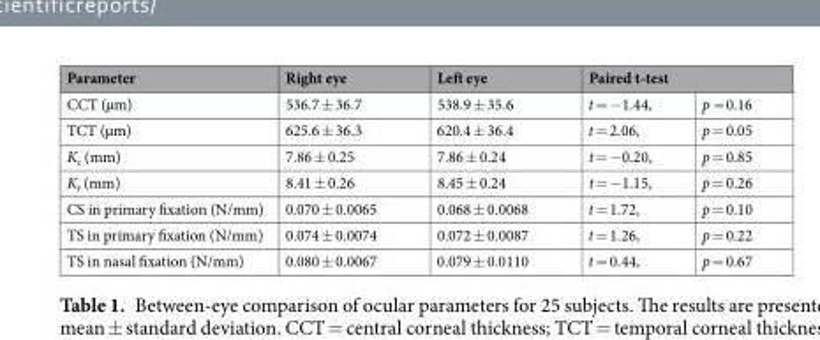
<table><thead><tr><td rowspan="2">Parameter CCT (µm)</td><td rowspan="2">Right eye 536.7 ± 36.7</td><td rowspan="2">Left eye 538.9 ± 35.6</td><td colspan="2">Paired t-test</td></tr><tr><td>t = −1.44,</td><td>p = 0.16</td></tr></thead><tbody><tr><td>TCT (µm)</td><td>625.6 ± 36.3</td><td>620.4 ± 36.4</td><td>t = 2.06,</td><td>p = 0.05</td></tr><tr><td>K<sub>c</sub> (mm)</td><td>7.86 ± 0.25</td><td>7.86 ± 0.24</td><td>t = −0.20,</td><td>p = 0.85</td></tr><tr><td>K<sub>t</sub> (mm)</td><td>8.41 ± 0.26</td><td>8.45 ± 0.24</td><td>t = −1.15,</td><td>p = 0.26</td></tr><tr><td>CS in primary fixation (N/mm)</td><td>0.070 ± 0.0065</td><td>0.068 ± 0.0068</td><td>t = 1.72,</td><td>p = 0.10</td></tr><tr><td>TS in primary fixation (N/mm)</td><td>0.074 ± 0.0074</td><td>0.072 ± 0.0087</td><td>t = 1.26,</td><td>p = 0.22</td></tr><tr><td>TS in nasal fixation (N/mm)</td><td>0.080 ± 0.0067</td><td>0.079 ± 0.0110</td><td>t = 0.44,</td><td>p = 0.67</td></tr></tbody></table>